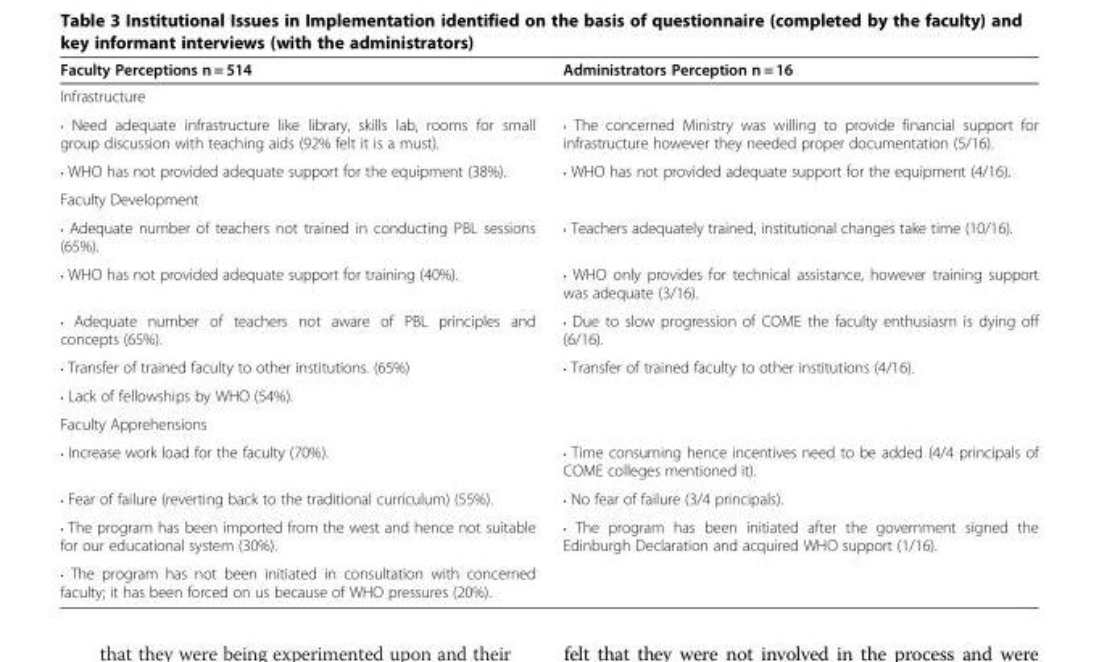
<table><thead><tr><td>Faculty Perceptions n = 514</td><td>Administrators Perception n = 16</td></tr></thead><tbody><tr><td colspan="2">Infrastructure</td></tr><tr><td>• Need adequate infrastructure like library, skills lab, rooms for small group discussion with teaching aids (92% felt it is a must).</td><td>• The concerned Ministry was willing to provide financial support for infrastructure however they needed proper documentation (5/16).</td></tr><tr><td>• WHO has not provided adequate support for the equipment (38%).</td><td>• WHO has not provided adequate support for the equipment (4/16).</td></tr><tr><td colspan="2">Faculty Development</td></tr><tr><td>• Adequate number of teachers not trained in conducting PBL sessions (65%).</td><td>• Teachers adequately trained, institutional changes take time (10/16).</td></tr><tr><td>• WHO has not provided adequate support for training (40%).</td><td>• WHO only provides for technical assistance, however training support was adequate (3/16).</td></tr><tr><td>• Adequate number of teachers not aware of PBL principles and concepts (65%).</td><td>• Due to slow progression of COME the faculty enthusiasm is dying off (6/16).</td></tr><tr><td>• Transfer of trained faculty to other institutions. (65%)</td><td>• Transfer of trained faculty to other institutions (4/16).</td></tr><tr><td colspan="2">• Lack of fellowships by WHO (54%).</td></tr><tr><td colspan="2">Faculty Apprehensions</td></tr><tr><td>• Increase work load for the faculty (70%).</td><td>• Time consuming hence incentives need to be added (4/4 principals of COME colleges mentioned it).</td></tr><tr><td>• Fear of failure (reverting back to the traditional curriculum) (55%).</td><td>• No fear of failure (3/4 principals).</td></tr><tr><td>• The program has been imported from the west and hence not suitable for our educational system (30%).</td><td>• The program has been initiated after the government signed the Edinburgh Declaration and acquired WHO support (1/16).</td></tr><tr><td>• The program has not been initiated in consultation with concerned faculty; it has been forced on us because of WHO pressures (20%).</td><td></td></tr></tbody></table>